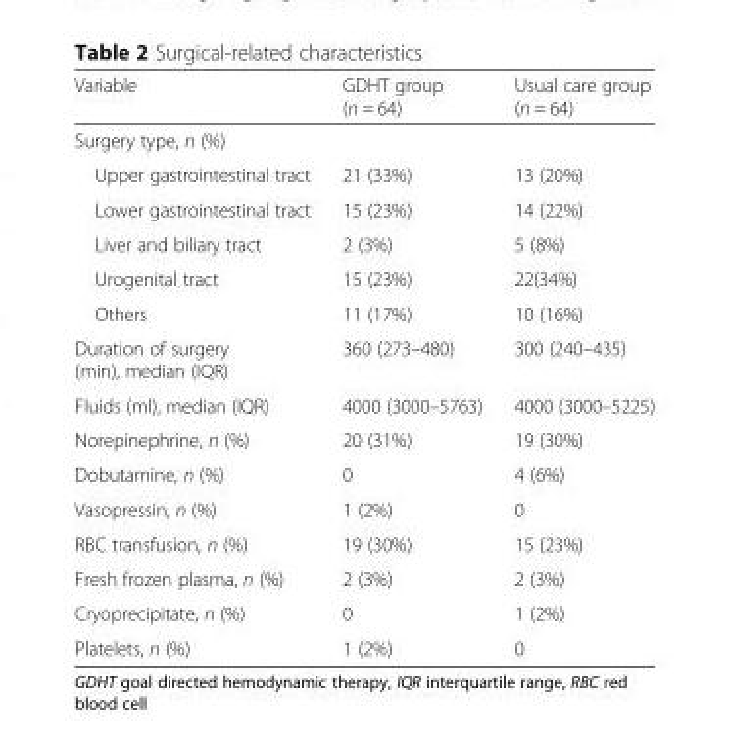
<table><thead><tr><td>Variable</td><td>GDHT group (n = 64)</td><td>Usual care group (n = 64)</td></tr></thead><tbody><tr><td colspan="3">Surgery type, n (%)</td></tr><tr><td>Upper gastrointestinal tract</td><td>21 (33%)</td><td>13 (20%)</td></tr><tr><td>Lower gastrointestinal tract</td><td>15 (23%)</td><td>14 (22%)</td></tr><tr><td>Liver and biliary tract</td><td>2 (3%)</td><td>5 (8%)</td></tr><tr><td>Urogenital tract</td><td>15 (23%)</td><td>22(34%)</td></tr><tr><td>Others</td><td>11 (17%)</td><td>10 (16%)</td></tr><tr><td>Duration of surgery (min), median (IQR)</td><td>360 (273–480)</td><td>300 (240–435)</td></tr><tr><td>Fluids (ml), median (IQR)</td><td>4000 (3000–5763)</td><td>4000 (3000–5225)</td></tr><tr><td>Norepinephrine, n (%)</td><td>20 (31%)</td><td>19 (30%)</td></tr><tr><td>Dobutamine, n (%)</td><td>0</td><td>4 (6%)</td></tr><tr><td>Vasopressin, n (%)</td><td>1 (2%)</td><td>0</td></tr><tr><td>RBC transfusion, n (%)</td><td>19 (30%)</td><td>15 (23%)</td></tr><tr><td>Fresh frozen plasma, n (%)</td><td>2 (3%)</td><td>2 (3%)</td></tr><tr><td>Cryoprecipitate, n (%)</td><td>0</td><td>1 (2%)</td></tr><tr><td>Platelets, n (%)</td><td>1 (2%)</td><td>0</td></tr></tbody></table>